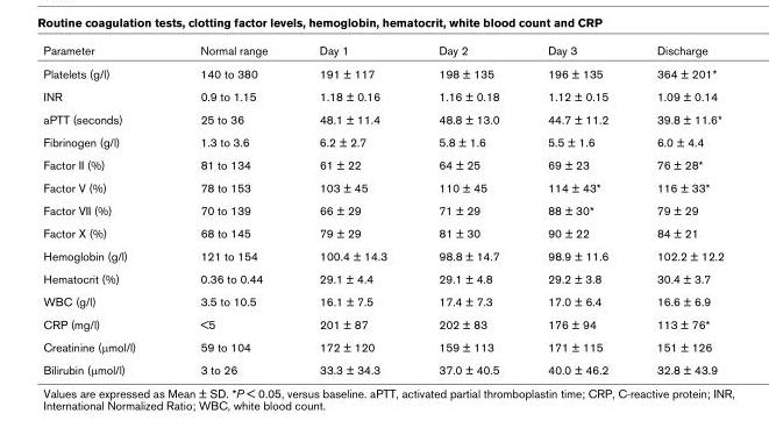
<table><thead><tr><td>Parameter</td><td>Normal range</td><td>Day 1</td><td>Day 2</td><td>Day 3</td><td>Discharge</td></tr></thead><tbody><tr><td>Platelets (g/l)</td><td>140 to 380</td><td>191 ± 117</td><td>198 ± 135</td><td>196 ± 135</td><td>364 ± 201*</td></tr><tr><td>INR</td><td>0.9 to 1.15</td><td>1.18 ± 0.16</td><td>1.16 ± 0.18</td><td>1.12 ± 0.15</td><td>1.09 ± 0.14</td></tr><tr><td>aPTT (seconds)</td><td>25 to 36</td><td>48.1 ± 11.4</td><td>48.8 ± 13.0</td><td>44.7 ± 11.2</td><td>39.8 ± 11.6*</td></tr><tr><td>Fibrinogen (g/l)</td><td>1.3 to 3.6</td><td>6.2 ± 2.7</td><td>5.8 ± 1.6</td><td>5.5 ± 1.6</td><td>6.0 ± 4.4</td></tr><tr><td>Factor II (%)</td><td>81 to 134</td><td>61 ± 22</td><td>64 ± 25</td><td>69 ± 23</td><td>76 ± 28*</td></tr><tr><td>Factor V (%)</td><td>78 to 153</td><td>103 ± 45</td><td>110 ± 45</td><td>114 ± 43*</td><td>116 ± 33*</td></tr><tr><td>Factor VII (%)</td><td>70 to 139</td><td>66 ± 29</td><td>71 ± 29</td><td>88 ± 30*</td><td>79 ± 29</td></tr><tr><td>Factor X (%)</td><td>68 to 145</td><td>79 ± 29</td><td>81 ± 30</td><td>90 ± 22</td><td>84 ± 21</td></tr><tr><td>Hemoglobin (g/l)</td><td>121 to 154</td><td>100.4 ± 14.3</td><td>98.8 ± 14.7</td><td>98.9 ± 11.6</td><td>102.2 ± 12.2</td></tr><tr><td>Hematocrit (%)</td><td>0.36 to 0.44</td><td>29.1 ± 4.4</td><td>29.1 ± 4.8</td><td>29.2 ± 3.8</td><td>30.4 ± 3.7</td></tr><tr><td>WBC (g/l)</td><td>3.5 to 10.5</td><td>16.1 ± 7.5</td><td>17.4 ± 7.3</td><td>17.0 ± 6.4</td><td>16.6 ± 6.9</td></tr><tr><td>CRP (mg/l)</td><td>&lt;5</td><td>201 ± 87</td><td>202 ± 83</td><td>176 ± 94</td><td>113 ± 76*</td></tr><tr><td>Creatinine (μmol/l)</td><td>59 to 104</td><td>172 ± 120</td><td>159 ± 113</td><td>171 ± 115</td><td>151 ± 126</td></tr><tr><td>Bilirubin (μmol/l)</td><td>3 to 26</td><td>33.3 ± 34.3</td><td>37.0 ± 40.5</td><td>40.0 ± 46.2</td><td>32.8 ± 43.9</td></tr></tbody></table>